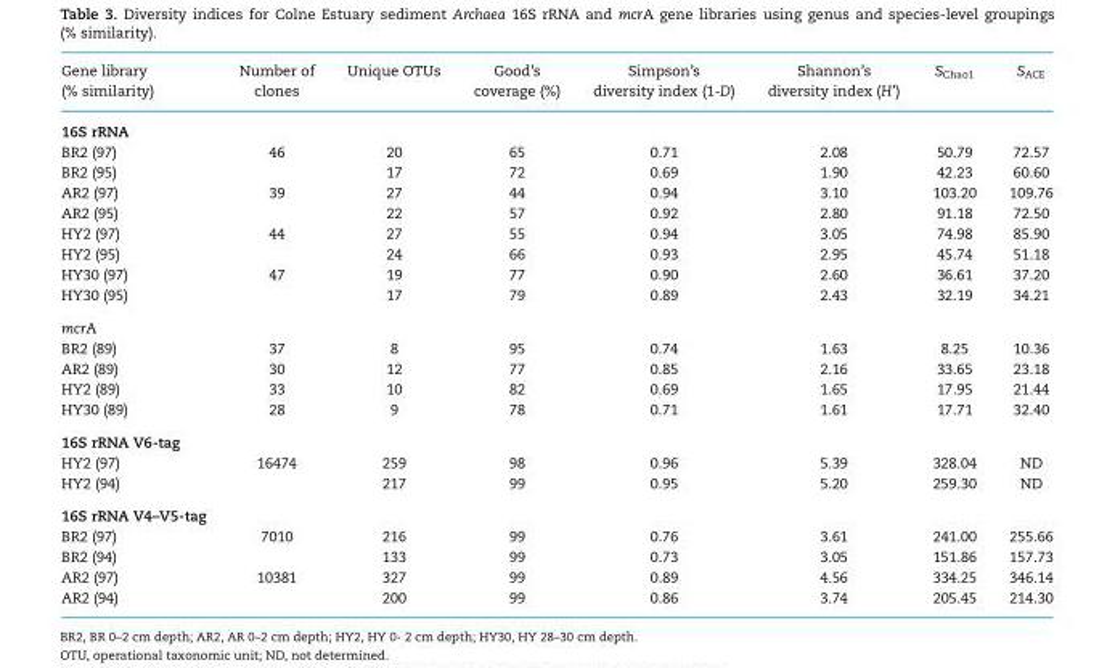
<table><thead><tr><td rowspan="2">Gene library (% similarity)</td><td rowspan="2">Number of clones</td><td rowspan="2">Unique OTUs</td><td rowspan="2">Good’s coverage (%)</td><td rowspan="2">Simpson’s diversity index (1-D)</td><td rowspan="2">Shannon’s diversity index (H’)</td><td rowspan="2">S<sub>Chao1</sub></td><td rowspan="2">S<sub>ACE</sub></td></tr><tr></tr></thead><tbody><tr><td colspan="8">16S rRNA</td></tr><tr><td>BR2 (97)</td><td>46</td><td>20</td><td>65</td><td>0.71</td><td>2.08</td><td>50.79</td><td>72.57</td></tr><tr><td>BR2 (95)</td><td></td><td>17</td><td>72</td><td>0.69</td><td>1.90</td><td>42.23</td><td>60.60</td></tr><tr><td>AR2 (97)</td><td>39</td><td>27</td><td>44</td><td>0.94</td><td>3.10</td><td>103.20</td><td>109.76</td></tr><tr><td>AR2 (95)</td><td></td><td>22</td><td>57</td><td>0.92</td><td>2.80</td><td>91.18</td><td>72.50</td></tr><tr><td>HY2 (97)</td><td>44</td><td>27</td><td>55</td><td>0.94</td><td>3.05</td><td>74.98</td><td>85.90</td></tr><tr><td>HY2 (95)</td><td></td><td>24</td><td>66</td><td>0.93</td><td>2.95</td><td>45.74</td><td>51.18</td></tr><tr><td>HY30 (97)</td><td>47</td><td>19</td><td>77</td><td>0.90</td><td>2.60</td><td>36.61</td><td>37.20</td></tr><tr><td>HY30 (95)</td><td></td><td>17</td><td>79</td><td>0.89</td><td>2.43</td><td>32.19</td><td>34.21</td></tr><tr><td colspan="8">mcrA</td></tr><tr><td>BR2 (89)</td><td>37</td><td>8</td><td>95</td><td>0.74</td><td>1.63</td><td>8.25</td><td>10.36</td></tr><tr><td>AR2 (89)</td><td>30</td><td>12</td><td>77</td><td>0.85</td><td>2.16</td><td>33.65</td><td>23.18</td></tr><tr><td>HY2 (89)</td><td>33</td><td>10</td><td>82</td><td>0.69</td><td>1.65</td><td>17.95</td><td>21.44</td></tr><tr><td>HY30 (89)</td><td>28</td><td>9</td><td>78</td><td>0.71</td><td>1.61</td><td>17.71</td><td>32.40</td></tr><tr><td colspan="8">16S rRNA V6-tag</td></tr><tr><td>HY2 (97)</td><td>16474</td><td>259</td><td>98</td><td>0.96</td><td>5.39</td><td>328.04</td><td>ND</td></tr><tr><td>HY2 (94)</td><td></td><td>217</td><td>99</td><td>0.95</td><td>5.20</td><td>259.30</td><td>ND</td></tr><tr><td colspan="8">16S rRNA V4–V5-tag</td></tr><tr><td>BR2 (97)</td><td>7010</td><td>216</td><td>99</td><td>0.76</td><td>3.61</td><td>241.00</td><td>255.66</td></tr><tr><td>BR2 (94)</td><td></td><td>133</td><td>99</td><td>0.73</td><td>3.05</td><td>151.86</td><td>157.73</td></tr><tr><td>AR2 (97)</td><td>10381</td><td>327</td><td>99</td><td>0.89</td><td>4.56</td><td>334.25</td><td>346.14</td></tr><tr><td>AR2 (94)</td><td></td><td>200</td><td>99</td><td>0.86</td><td>3.74</td><td>205.45</td><td>214.30</td></tr></tbody></table>